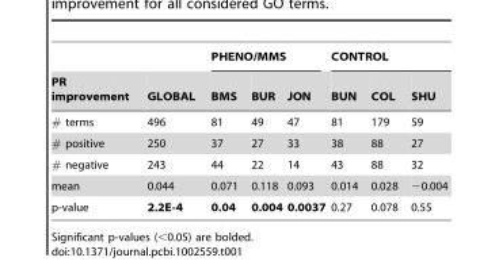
<table><thead><tr><td rowspan="2">PR improvement</td><td rowspan="2">GLOBAL</td><td colspan="3">PHENO/MMS</td><td colspan="3">CONTROL</td></tr><tr><td>BMS</td><td>BUR</td><td>JON</td><td>BUN</td><td>COL</td><td>SHU</td></tr></thead><tbody><tr><td># terms</td><td>496</td><td>81</td><td>49</td><td>47</td><td>81</td><td>179</td><td>59</td></tr><tr><td># positive</td><td>250</td><td>37</td><td>27</td><td>33</td><td>38</td><td>88</td><td>27</td></tr><tr><td># negative</td><td>243</td><td>44</td><td>22</td><td>14</td><td>43</td><td>88</td><td>32</td></tr><tr><td>mean</td><td>0.044</td><td>0.071</td><td>0.118</td><td>0.093</td><td>0.014</td><td>0.028</td><td>−0.004</td></tr><tr><td>p-value</td><td>2.2E-4</td><td>0.04</td><td>0.004</td><td>0.0037</td><td>0.27</td><td>0.078</td><td>0.55</td></tr></tbody></table>